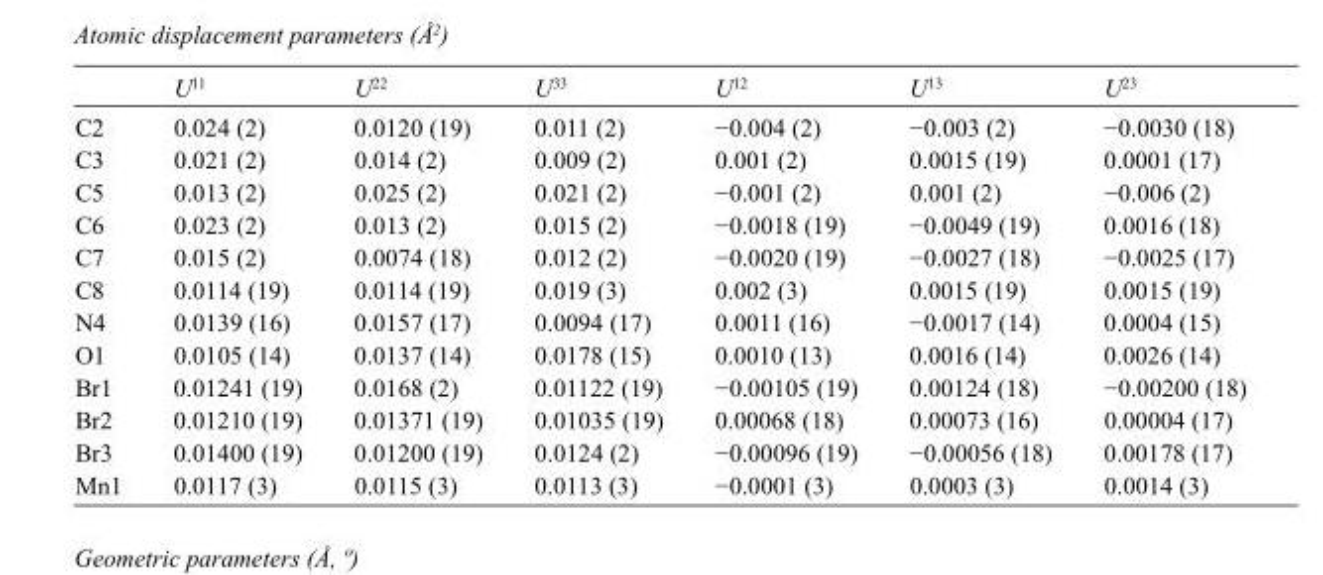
<table><thead><tr><td></td><td>U<sup>11</sup></td><td>U<sup>22</sup></td><td>U<sup>33</sup></td><td>U<sup>12</sup></td><td>U<sup>13</sup></td><td>U<sup>23</sup></td></tr></thead><tbody><tr><td>C2</td><td>0.024 (2)</td><td>0.0120 (19)</td><td>0.011 (2)</td><td>−0.004 (2)</td><td>−0.003 (2)</td><td>−0.0030 (18)</td></tr><tr><td>C3</td><td>0.021 (2)</td><td>0.014 (2)</td><td>0.009 (2)</td><td>0.001 (2)</td><td>0.0015 (19)</td><td>0.0001 (17)</td></tr><tr><td>C5</td><td>0.013 (2)</td><td>0.025 (2)</td><td>0.021 (2)</td><td>−0.001 (2)</td><td>0.001 (2)</td><td>−0.006 (2)</td></tr><tr><td>C6</td><td>0.023 (2)</td><td>0.013 (2)</td><td>0.015 (2)</td><td>−0.0018 (19)</td><td>−0.0049 (19)</td><td>0.0016 (18)</td></tr><tr><td>C7</td><td>0.015 (2)</td><td>0.0074 (18)</td><td>0.012 (2)</td><td>−0.0020 (19)</td><td>−0.0027 (18)</td><td>−0.0025 (17)</td></tr><tr><td>C8</td><td>0.0114 (19)</td><td>0.0114 (19)</td><td>0.019 (3)</td><td>0.002 (3)</td><td>0.0015 (19)</td><td>0.0015 (19)</td></tr><tr><td>N4</td><td>0.0139 (16)</td><td>0.0157 (17)</td><td>0.0094 (17)</td><td>0.0011 (16)</td><td>−0.0017 (14)</td><td>0.0004 (15)</td></tr><tr><td>O1</td><td>0.0105 (14)</td><td>0.0137 (14)</td><td>0.0178 (15)</td><td>0.0010 (13)</td><td>0.0016 (14)</td><td>0.0026 (14)</td></tr><tr><td>Br1</td><td>0.01241 (19)</td><td>0.0168 (2)</td><td>0.01122 (19)</td><td>−0.00105 (19)</td><td>0.00124 (18)</td><td>−0.00200 (18)</td></tr><tr><td>Br2</td><td>0.01210 (19)</td><td>0.01371 (19)</td><td>0.01035 (19)</td><td>0.00068 (18)</td><td>0.00073 (16)</td><td>0.00004 (17)</td></tr><tr><td>Br3</td><td>0.01400 (19)</td><td>0.01200 (19)</td><td>0.0124 (2)</td><td>−0.00096 (19)</td><td>−0.00056 (18)</td><td>0.00178 (17)</td></tr><tr><td>Mn1</td><td>0.0117 (3)</td><td>0.0115 (3)</td><td>0.0113 (3)</td><td>−0.0001 (3)</td><td>0.0003 (3)</td><td>0.0014 (3)</td></tr></tbody></table>